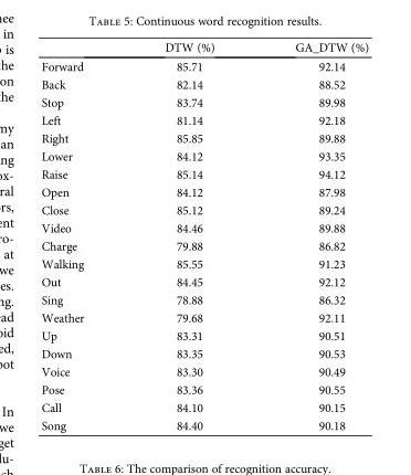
<table><thead><tr><td></td><td>DTW (%)</td><td>GA_DTW (%)</td></tr></thead><tbody><tr><td>Forward</td><td>85.71</td><td>92.14</td></tr><tr><td>Back</td><td>82.14</td><td>88.52</td></tr><tr><td>Stop</td><td>83.74</td><td>89.98</td></tr><tr><td>Left</td><td>81.14</td><td>92.18</td></tr><tr><td>Right</td><td>85.85</td><td>89.88</td></tr><tr><td>Lower</td><td>84.12</td><td>93.35</td></tr><tr><td>Raise</td><td>85.14</td><td>94.12</td></tr><tr><td>Open</td><td>84.12</td><td>87.98</td></tr><tr><td>Close</td><td>85.12</td><td>89.24</td></tr><tr><td>Video</td><td>84.46</td><td>89.88</td></tr><tr><td>Charge</td><td>79.88</td><td>86.82</td></tr><tr><td>Walking</td><td>85.55</td><td>91.23</td></tr><tr><td>Out</td><td>84.45</td><td>92.12</td></tr><tr><td>Sing</td><td>78.88</td><td>86.32</td></tr><tr><td>Weather</td><td>79.68</td><td>92.11</td></tr><tr><td>Up</td><td>83.31</td><td>90.51</td></tr><tr><td>Down</td><td>83.35</td><td>90.53</td></tr><tr><td>Voice</td><td>83.30</td><td>90.49</td></tr><tr><td>Pose</td><td>83.36</td><td>90.55</td></tr><tr><td>Call</td><td>84.10</td><td>90.15</td></tr><tr><td>Song</td><td>84.40</td><td>90.18</td></tr></tbody></table>